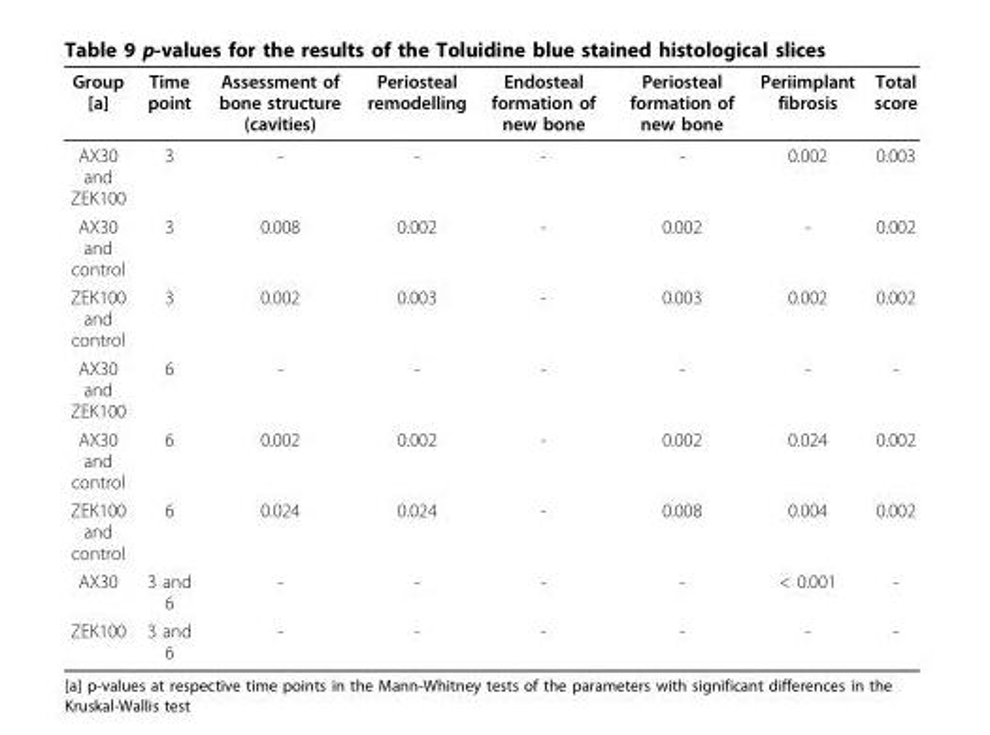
<table><thead><tr><td>Group [a]</td><td>Time point</td><td>Assessment of bone structure (cavities)</td><td>Periosteal remodelling</td><td>Endosteal formation of new bone</td><td>Periosteal formation of new bone</td><td>Periimplant fibrosis</td><td>Total score</td></tr></thead><tbody><tr><td>AX30 and ZEK100</td><td>3</td><td>-</td><td>-</td><td>-</td><td>-</td><td>0.002</td><td>0.003</td></tr><tr><td>AX30 and control</td><td>3</td><td>0.008</td><td>0.002</td><td>-</td><td>0.002</td><td>-</td><td>0.002</td></tr><tr><td>ZEK100 and control</td><td>3</td><td>0.002</td><td>0.003</td><td>-</td><td>0.003</td><td>0.002</td><td>0.002</td></tr><tr><td>AX30 and ZEK100</td><td>6</td><td>-</td><td>-</td><td>-</td><td>-</td><td>-</td><td>-</td></tr><tr><td>AX30 and control</td><td>6</td><td>0.002</td><td>0.002</td><td>-</td><td>0.002</td><td>0.024</td><td>0.002</td></tr><tr><td>ZEK100 and control</td><td>6</td><td>0.024</td><td>0.024</td><td>-</td><td>0.008</td><td>0.004</td><td>0.002</td></tr><tr><td>AX30</td><td>3 and 6</td><td>-</td><td>-</td><td>-</td><td>-</td><td>&lt; 0.001</td><td>-</td></tr><tr><td>ZEK100</td><td>3 and 6</td><td>-</td><td>-</td><td>-</td><td>-</td><td>-</td><td>-</td></tr></tbody></table>